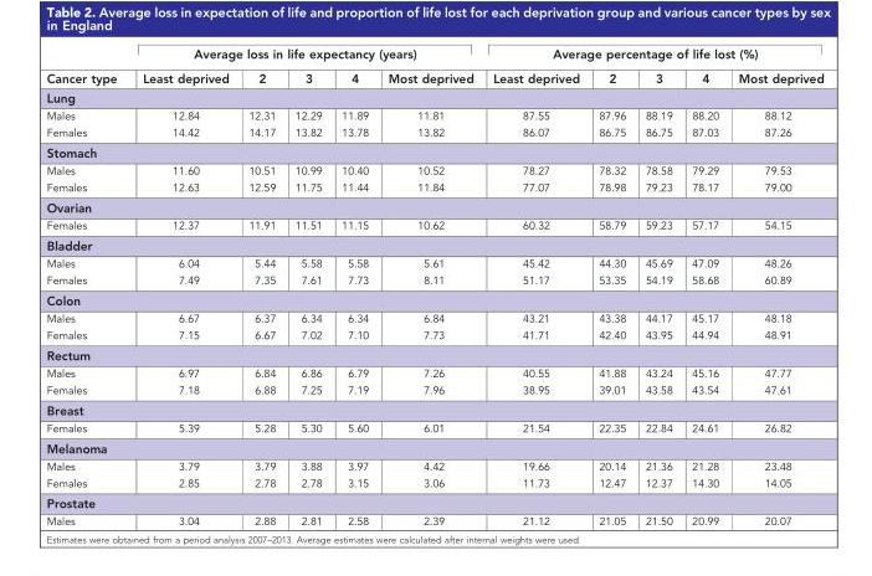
<table><thead><tr><td rowspan="2">Cancer type</td><td colspan="5">Average loss in life expectancy (years)</td><td colspan="5">Average percentage of life lost (%)</td></tr><tr><td>Least deprived</td><td>2</td><td>3</td><td>4</td><td>Most deprived</td><td>Least deprived</td><td>2</td><td>3</td><td>4</td><td>Most deprived</td></tr></thead><tbody><tr><td colspan="11">Lung</td></tr><tr><td>Males</td><td>12.84</td><td>12.31</td><td>12.29</td><td>11.89</td><td>11.81</td><td>87.55</td><td>87.96</td><td>88.19</td><td>88.20</td><td>88.12</td></tr><tr><td>Females</td><td>14.42</td><td>14.17</td><td>13.82</td><td>13.78</td><td>13.82</td><td>86.07</td><td>86.75</td><td>86.75</td><td>87.03</td><td>87.26</td></tr><tr><td colspan="11">Stomach</td></tr><tr><td>Males</td><td>11.60</td><td>10.51</td><td>10.99</td><td>10.40</td><td>10.52</td><td>78.27</td><td>78.32</td><td>78.58</td><td>79.29</td><td>79.53</td></tr><tr><td>Females</td><td>12.63</td><td>12.59</td><td>11.75</td><td>11.44</td><td>11.84</td><td>77.07</td><td>78.98</td><td>79.23</td><td>78.17</td><td>79.00</td></tr><tr><td colspan="11">Ovarian</td></tr><tr><td>Females</td><td>12.37</td><td>11.91</td><td>11.51</td><td>11.15</td><td>10.62</td><td>60.32</td><td>58.79</td><td>59.23</td><td>57.17</td><td>54.15</td></tr><tr><td colspan="11">Bladder</td></tr><tr><td>Males</td><td>6.04</td><td>5.44</td><td>5.58</td><td>5.58</td><td>5.61</td><td>45.42</td><td>44.30</td><td>45.69</td><td>47.09</td><td>48.26</td></tr><tr><td>Females</td><td>7.49</td><td>7.35</td><td>7.61</td><td>7.73</td><td>8.11</td><td>51.17</td><td>53.35</td><td>54.19</td><td>58.68</td><td>60.89</td></tr><tr><td colspan="11">Colon</td></tr><tr><td>Males</td><td>6.67</td><td>6.37</td><td>6.34</td><td>6.34</td><td>6.84</td><td>43.21</td><td>43.38</td><td>44.17</td><td>45.17</td><td>48.18</td></tr><tr><td>Females</td><td>7.15</td><td>6.67</td><td>7.02</td><td>7.10</td><td>7.73</td><td>41.71</td><td>42.40</td><td>43.95</td><td>44.94</td><td>48.91</td></tr><tr><td colspan="11">Rectum</td></tr><tr><td>Males</td><td>6.97</td><td>6.84</td><td>6.86</td><td>6.79</td><td>7.26</td><td>40.55</td><td>41.88</td><td>43.24</td><td>45.16</td><td>47.77</td></tr><tr><td>Females</td><td>7.18</td><td>6.88</td><td>7.25</td><td>7.19</td><td>7.96</td><td>38.95</td><td>39.01</td><td>43.58</td><td>43.54</td><td>47.61</td></tr><tr><td colspan="11">Breast</td></tr><tr><td>Females</td><td>5.39</td><td>5.28</td><td>5.30</td><td>5.60</td><td>6.01</td><td>21.54</td><td>22.35</td><td>22.84</td><td>24.61</td><td>26.82</td></tr><tr><td colspan="11">Melanoma</td></tr><tr><td>Males</td><td>3.79</td><td>3.79</td><td>3.88</td><td>3.97</td><td>4.42</td><td>19.66</td><td>20.14</td><td>21.36</td><td>21.28</td><td>23.48</td></tr><tr><td>Females</td><td>2.85</td><td>2.78</td><td>2.78</td><td>3.15</td><td>3.06</td><td>11.73</td><td>12.47</td><td>12.37</td><td>14.30</td><td>14.05</td></tr><tr><td colspan="11">Prostate</td></tr><tr><td>Males</td><td>3.04</td><td>2.88</td><td>2.81</td><td>2.58</td><td>2.39</td><td>21.12</td><td>21.05</td><td>21.50</td><td>20.99</td><td>20.07</td></tr></tbody></table>